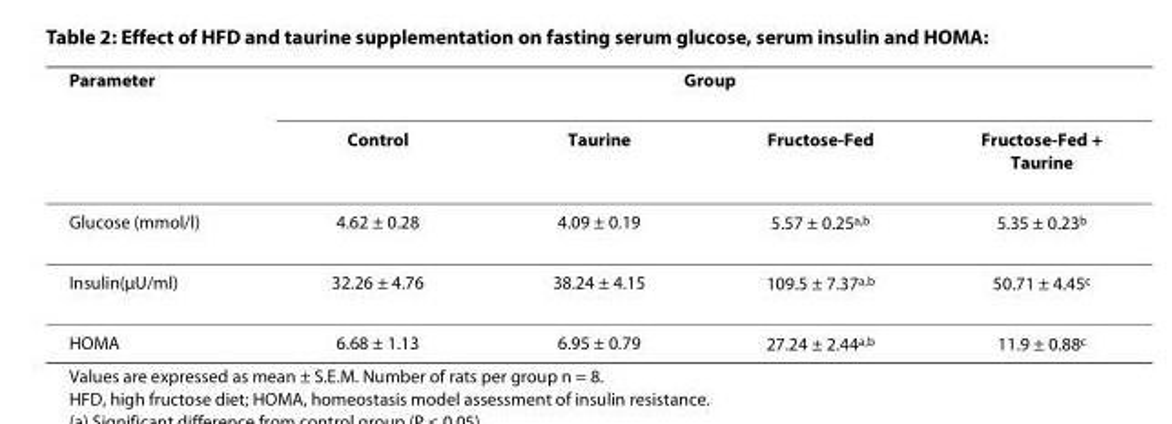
<table><thead><tr><td rowspan="2">Parameter</td><td colspan="4">Group</td></tr><tr><td>Control</td><td>Taurine</td><td>Fructose-Fed</td><td>Fructose-Fed + Taurine</td></tr></thead><tbody><tr><td>Glucose (mmol/l)</td><td>4.62 ± 0.28</td><td>4.09 ± 0.19</td><td>5.57 ± 0.25<sup>a,b</sup></td><td>5.35 ± 0.23<sup>b</sup></td></tr><tr><td>Insulin(μU/ml)</td><td>32.26 ± 4.76</td><td>38.24 ± 4.15</td><td>109.5 ± 7.37<sup>a,b</sup></td><td>50.71 ± 4.45<sup>c</sup></td></tr><tr><td>HOMA</td><td>6.68 ± 1.13</td><td>6.95 ± 0.79</td><td>27.24 ± 2.44<sup>a,b</sup></td><td>11.9 ± 0.88<sup>c</sup></td></tr></tbody></table>